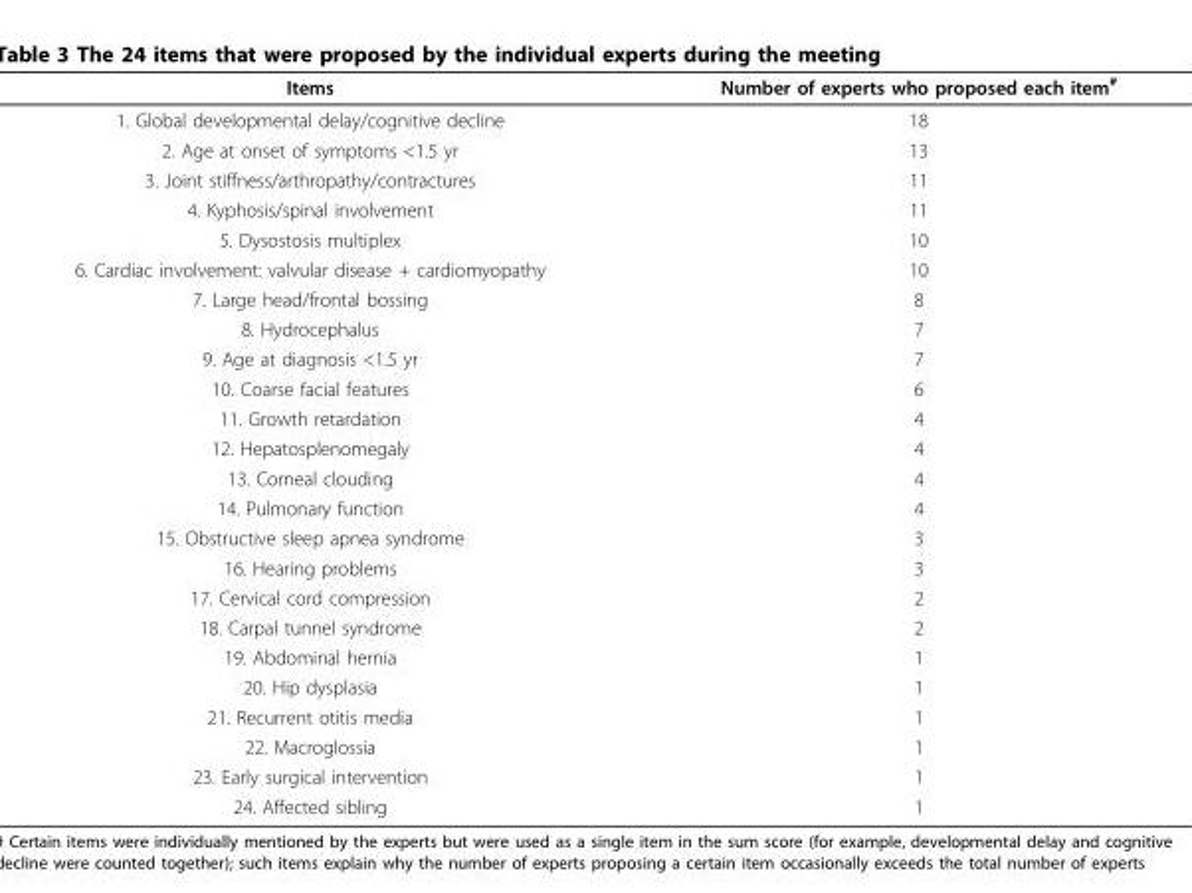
<table><thead><tr><td>Items</td><td>Number of experts who proposed each item<sup>#</sup></td></tr></thead><tbody><tr><td>1. Global developmental delay/cognitive decline</td><td>18</td></tr><tr><td>2. Age at onset of symptoms &lt;1.5 yr</td><td>13</td></tr><tr><td>3. Joint stiffness/arthropathy/contractures</td><td>11</td></tr><tr><td>4. Kyphosis/spinal involvement</td><td>11</td></tr><tr><td>5. Dysostosis multiplex</td><td>10</td></tr><tr><td>6. Cardiac involvement: valvular disease + cardiomyopathy</td><td>10</td></tr><tr><td>7. Large head/frontal bossing</td><td>8</td></tr><tr><td>8. Hydrocephalus</td><td>7</td></tr><tr><td>9. Age at diagnosis &lt;1.5 yr</td><td>7</td></tr><tr><td>10. Coarse facial features</td><td>6</td></tr><tr><td>11. Growth retardation</td><td>4</td></tr><tr><td>12. Hepatosplenomegaly</td><td>4</td></tr><tr><td>13. Corneal clouding</td><td>4</td></tr><tr><td>14. Pulmonary function</td><td>4</td></tr><tr><td>15. Obstructive sleep apnea syndrome</td><td>3</td></tr><tr><td>16. Hearing problems</td><td>3</td></tr><tr><td>17. Cervical cord compression</td><td>2</td></tr><tr><td>18. Carpal tunnel syndrome</td><td>2</td></tr><tr><td>19. Abdominal hernia</td><td>1</td></tr><tr><td>20. Hip dysplasia</td><td>1</td></tr><tr><td>21. Recurrent otitis media</td><td>1</td></tr><tr><td>22. Macroglossia</td><td>1</td></tr><tr><td>23. Early surgical intervention</td><td>1</td></tr><tr><td>24. Affected sibling</td><td>1</td></tr></tbody></table>